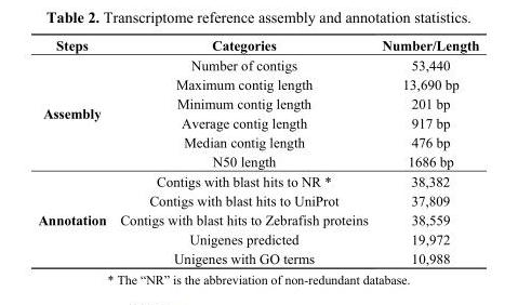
<table><thead><tr><td>Steps</td><td>Categories</td><td>Number/Length</td></tr></thead><tbody><tr><td rowspan="6">Assembly</td><td>Number of contigs</td><td>53,440</td></tr><tr><td>Maximum contig length</td><td>13,690 bp</td></tr><tr><td>Minimum contig length</td><td>201 bp</td></tr><tr><td>Average contig length</td><td>917 bp</td></tr><tr><td>Median contig length</td><td>476 bp</td></tr><tr><td>N50 length</td><td>1686 bp</td></tr><tr><td rowspan="5">Annotation</td><td>Contigs with blast hits to NR *</td><td>38,382</td></tr><tr><td>Contigs with blast hits to UniProt</td><td>37,809</td></tr><tr><td>Contigs with blast hits to Zebrafish proteins</td><td>38,559</td></tr><tr><td>Unigenes predicted</td><td>19,972</td></tr><tr><td>Unigenes with GO terms</td><td>10,988</td></tr></tbody></table>